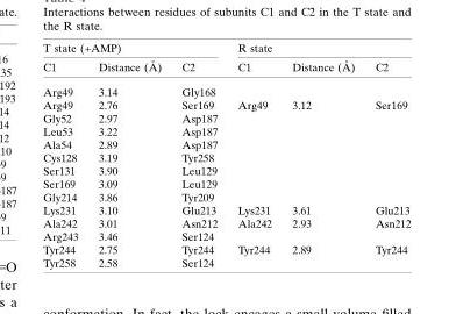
<table><thead><tr><td colspan="3">T state (+AMP)</td><td colspan="3">R state</td></tr><tr><td>C1</td><td>Distance (A˚ )</td><td>C2</td><td>C1</td><td>Distance (A˚ )</td><td>C2</td></tr></thead><tbody><tr><td>Arg49</td><td>3.14</td><td>Gly168</td><td></td><td></td><td></td></tr><tr><td>Arg49</td><td>2.76</td><td>Ser169</td><td>Arg49</td><td>3.12</td><td>Ser169</td></tr><tr><td>Gly52</td><td>2.97</td><td>Asp187</td><td></td><td></td><td></td></tr><tr><td>Leu53</td><td>3.22</td><td>Asp187</td><td></td><td></td><td></td></tr><tr><td>Ala54</td><td>2.89</td><td>Asp187</td><td></td><td></td><td></td></tr><tr><td>Cys128</td><td>3.19</td><td>Tyr258</td><td></td><td></td><td></td></tr><tr><td>Ser131</td><td>3.90</td><td>Leu129</td><td></td><td></td><td></td></tr><tr><td>Ser169</td><td>3.09</td><td>Leu129</td><td></td><td></td><td></td></tr><tr><td>Gly214</td><td>3.86</td><td>Tyr209</td><td></td><td></td><td></td></tr><tr><td>Lys231</td><td>3.10</td><td>Glu213</td><td>Lys231</td><td>3.61</td><td>Glu213</td></tr><tr><td>Ala242</td><td>3.01</td><td>Asn212</td><td>Ala242</td><td>2.93</td><td>Asn212</td></tr><tr><td>Arg243</td><td>3.46</td><td>Ser124</td><td></td><td></td><td></td></tr><tr><td>Tyr244</td><td>2.75</td><td>Tyr244</td><td>Tyr244</td><td>2.89</td><td>Tyr244</td></tr><tr><td>Tyr258</td><td>2.58</td><td>Ser124</td><td></td><td></td><td></td></tr></tbody></table>